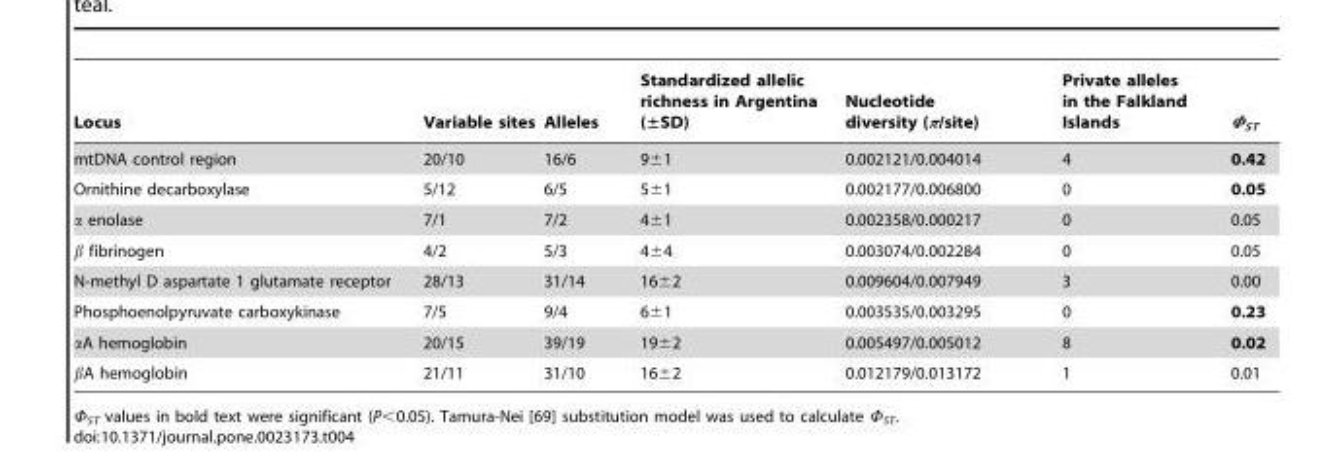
<table><thead><tr><td>Locus</td><td>Variable sites</td><td>Alleles</td><td>Standardized allelic richness in Argentina (±SD)</td><td>Nucleotide diversity (π/site)</td><td>Private alleles in the Falkland Islands</td><td>Φ<sub>ST</sub></td></tr></thead><tbody><tr><td>mtDNA control region</td><td>20/10</td><td>16/6</td><td>9±1</td><td>0.002121/0.004014</td><td>4</td><td>0.42</td></tr><tr><td>Ornithine decarboxylase</td><td>5/12</td><td>6/5</td><td>5±1</td><td>0.002177/0.006800</td><td>0</td><td>0.05</td></tr><tr><td>α enolase</td><td>7/1</td><td>7/2</td><td>4±1</td><td>0.002358/0.000217</td><td>0</td><td>0.05</td></tr><tr><td>β fibrinogen</td><td>4/2</td><td>5/3</td><td>4±4</td><td>0.003074/0.002284</td><td>0</td><td>0.05</td></tr><tr><td>N-methyl D aspartate 1 glutamate receptor</td><td>28/13</td><td>31/14</td><td>16±2</td><td>0.009604/0.007949</td><td>3</td><td>0.00</td></tr><tr><td>Phosphoenolpyruvate carboxykinase</td><td>7/5</td><td>9/4</td><td>6±1</td><td>0.003535/0.003295</td><td>0</td><td>0.23</td></tr><tr><td>αA hemoglobin</td><td>20/15</td><td>39/19</td><td>19±2</td><td>0.005497/0.005012</td><td>8</td><td>0.02</td></tr><tr><td>βA hemoglobin</td><td>21/11</td><td>31/10</td><td>16±2</td><td>0.012179/0.013172</td><td>1</td><td>0.01</td></tr></tbody></table>